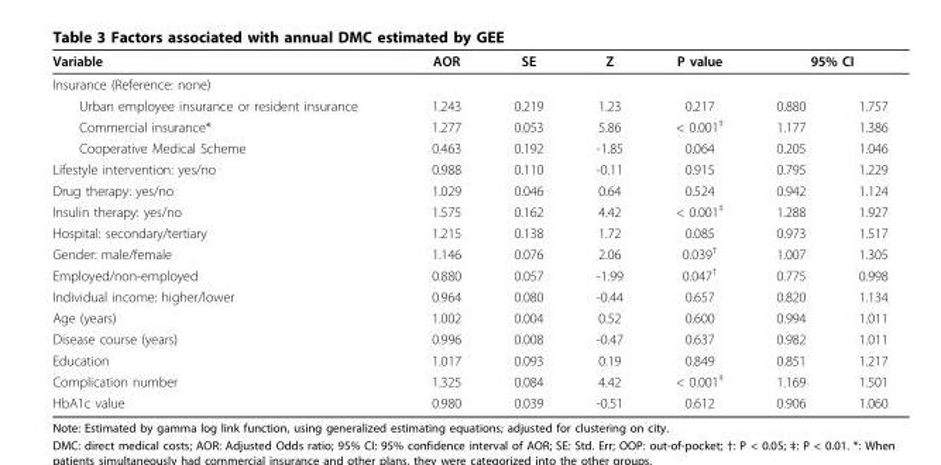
<table><thead><tr><td rowspan="2">Variable Insurance (Reference: none)</td><td rowspan="2">AOR</td><td rowspan="2">SE</td><td rowspan="2">Z</td><td rowspan="2">P value</td><td colspan="2">95% CI</td></tr><tr><td></td><td></td></tr></thead><tbody><tr><td>Urban employee insurance or resident insurance</td><td>1.243</td><td>0.219</td><td>1.23</td><td>0.217</td><td>0.880</td><td>1.757</td></tr><tr><td>Commercial insurance*</td><td>1.277</td><td>0.053</td><td>5.86</td><td>&lt; 0.001<sup>‡</sup></td><td>1.177</td><td>1.386</td></tr><tr><td>Cooperative Medical Scheme</td><td>0.463</td><td>0.192</td><td>-1.85</td><td>0.064</td><td>0.205</td><td>1.046</td></tr><tr><td>Lifestyle intervention: yes/no</td><td>0.988</td><td>0.110</td><td>-0.11</td><td>0.915</td><td>0.795</td><td>1.229</td></tr><tr><td>Drug therapy: yes/no</td><td>1.029</td><td>0.046</td><td>0.64</td><td>0.524</td><td>0.942</td><td>1.124</td></tr><tr><td>Insulin therapy: yes/no</td><td>1.575</td><td>0.162</td><td>4.42</td><td>&lt; 0.001<sup>‡</sup></td><td>1.288</td><td>1.927</td></tr><tr><td>Hospital: secondary/tertiary</td><td>1.215</td><td>0.138</td><td>1.72</td><td>0.085</td><td>0.973</td><td>1.517</td></tr><tr><td>Gender: male/female</td><td>1.146</td><td>0.076</td><td>2.06</td><td>0.039<sup>†</sup></td><td>1.007</td><td>1.305</td></tr><tr><td>Employed/non-employed</td><td>0.880</td><td>0.057</td><td>-1.99</td><td>0.047<sup>†</sup></td><td>0.775</td><td>0.998</td></tr><tr><td>Individual income: higher/lower</td><td>0.964</td><td>0.080</td><td>-0.44</td><td>0.657</td><td>0.820</td><td>1.134</td></tr><tr><td>Age (years)</td><td>1.002</td><td>0.004</td><td>0.52</td><td>0.600</td><td>0.994</td><td>1.011</td></tr><tr><td>Disease course (years)</td><td>0.996</td><td>0.008</td><td>-0.47</td><td>0.637</td><td>0.982</td><td>1.011</td></tr><tr><td>Education</td><td>1.017</td><td>0.093</td><td>0.19</td><td>0.849</td><td>0.851</td><td>1.217</td></tr><tr><td>Complication number</td><td>1.325</td><td>0.084</td><td>4.42</td><td>&lt; 0.001<sup>‡</sup></td><td>1.169</td><td>1.501</td></tr><tr><td>HbA1c value</td><td>0.980</td><td>0.039</td><td>-0.51</td><td>0.612</td><td>0.906</td><td>1.060</td></tr></tbody></table>